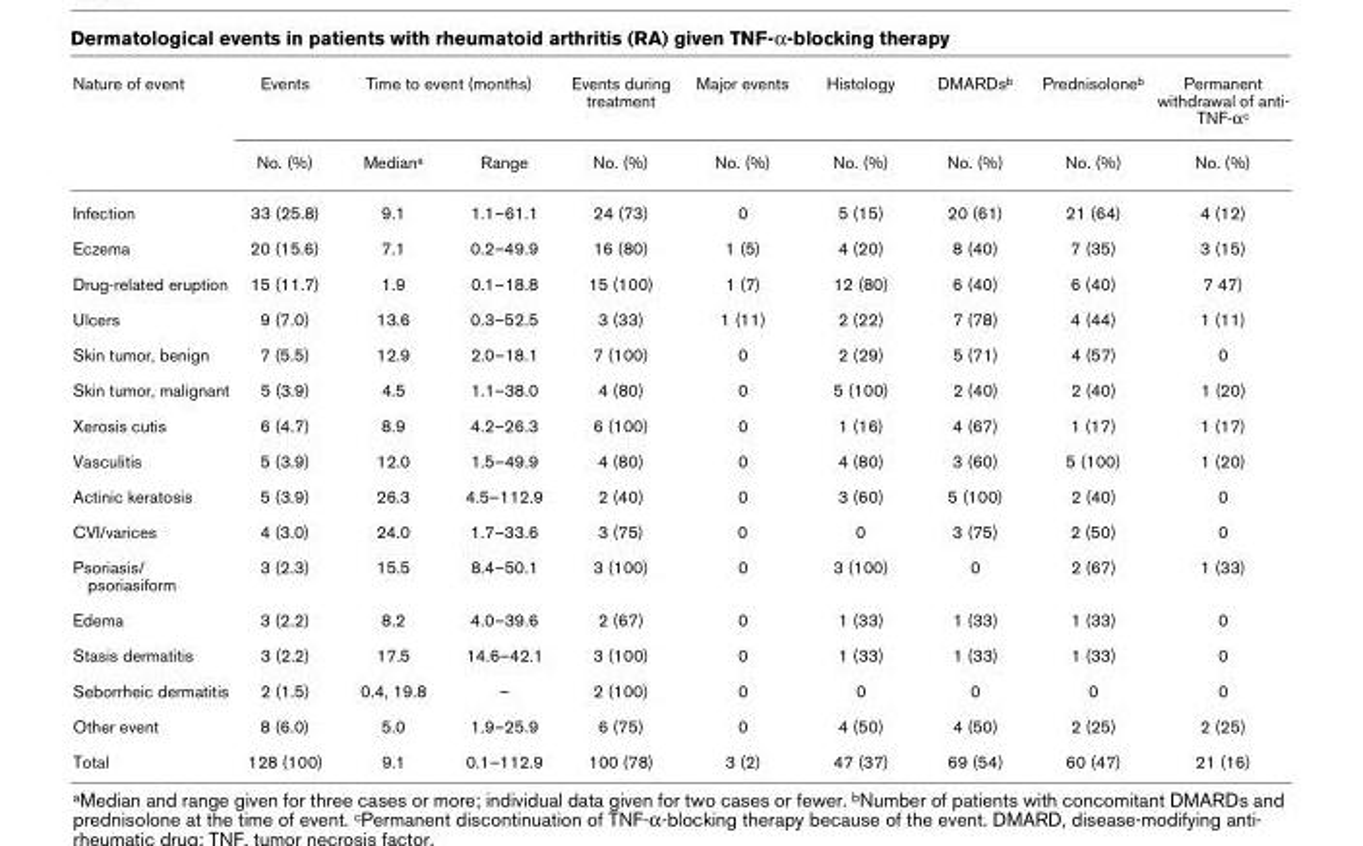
<table><thead><tr><td rowspan="2">Nature of event</td><td rowspan="2">Events No. (%)</td><td colspan="2">Time to event (months)</td><td rowspan="2">Events during treatment No. (%)</td><td rowspan="2">Major events No. (%)</td><td rowspan="2">Histology No. (%)</td><td rowspan="2">DMARDsb No. (%)</td><td rowspan="2">Prednisoloneb No. (%)</td><td rowspan="2">Permanent withdrawal of anti- TNF-αc No. (%)</td></tr><tr><td>Mediana</td><td>Range</td></tr></thead><tbody><tr><td>Infection</td><td>33 (25.8)</td><td>9.1</td><td>1.1–61.1</td><td>24 (73)</td><td>0</td><td>5 (15)</td><td>20 (61)</td><td>21 (64)</td><td>4 (12)</td></tr><tr><td>Eczema</td><td>20 (15.6)</td><td>7.1</td><td>0.2–49.9</td><td>16 (80)</td><td>1 (5)</td><td>4 (20)</td><td>8 (40)</td><td>7 (35)</td><td>3 (15)</td></tr><tr><td>Drug-related eruption</td><td>15 (11.7)</td><td>1.9</td><td>0.1–18.8</td><td>15 (100)</td><td>1 (7)</td><td>12 (80)</td><td>6 (40)</td><td>6 (40)</td><td>7 47)</td></tr><tr><td>Ulcers</td><td>9 (7.0)</td><td>13.6</td><td>0.3–52.5</td><td>3 (33)</td><td>1 (11)</td><td>2 (22)</td><td>7 (78)</td><td>4 (44)</td><td>1 (11)</td></tr><tr><td>Skin tumor, benign</td><td>7 (5.5)</td><td>12.9</td><td>2.0–18.1</td><td>7 (100)</td><td>0</td><td>2 (29)</td><td>5 (71)</td><td>4 (57)</td><td>0</td></tr><tr><td>Skin tumor, malignant</td><td>5 (3.9)</td><td>4.5</td><td>1.1–38.0</td><td>4 (80)</td><td>0</td><td>5 (100)</td><td>2 (40)</td><td>2 (40)</td><td>1 (20)</td></tr><tr><td>Xerosis cutis</td><td>6 (4.7)</td><td>8.9</td><td>4.2–26.3</td><td>6 (100)</td><td>0</td><td>1 (16)</td><td>4 (67)</td><td>1 (17)</td><td>1 (17)</td></tr><tr><td>Vasculitis</td><td>5 (3.9)</td><td>12.0</td><td>1.5–49.9</td><td>4 (80)</td><td>0</td><td>4 (80)</td><td>3 (60)</td><td>5 (100)</td><td>1 (20)</td></tr><tr><td>Actinic keratosis</td><td>5 (3.9)</td><td>26.3</td><td>4.5–112.9</td><td>2 (40)</td><td>0</td><td>3 (60)</td><td>5 (100)</td><td>2 (40)</td><td>0</td></tr><tr><td>CVI/varices</td><td>4 (3.0)</td><td>24.0</td><td>1.7–33.6</td><td>3 (75)</td><td>0</td><td>0</td><td>3 (75)</td><td>2 (50)</td><td>0</td></tr><tr><td>Psoriasis/ psoriasiform</td><td>3 (2.3)</td><td>15.5</td><td>8.4–50.1</td><td>3 (100)</td><td>0</td><td>3 (100)</td><td>0</td><td>2 (67)</td><td>1 (33)</td></tr><tr><td>Edema</td><td>3 (2.2)</td><td>8.2</td><td>4.0–39.6</td><td>2 (67)</td><td>0</td><td>1 (33)</td><td>1 (33)</td><td>1 (33)</td><td>0</td></tr><tr><td>Stasis dermatitis</td><td>3 (2.2)</td><td>17.5</td><td>14.6–42.1</td><td>3 (100)</td><td>0</td><td>1 (33)</td><td>1 (33)</td><td>1 (33)</td><td>0</td></tr><tr><td>Seborrheic dermatitis</td><td>2 (1.5)</td><td>0.4, 19.8</td><td>–</td><td>2 (100)</td><td>0</td><td>0</td><td>0</td><td>0</td><td>0</td></tr><tr><td>Other event</td><td>8 (6.0)</td><td>5.0</td><td>1.9–25.9</td><td>6 (75)</td><td>0</td><td>4 (50)</td><td>4 (50)</td><td>2 (25)</td><td>2 (25)</td></tr><tr><td>Total</td><td>128 (100)</td><td>9.1</td><td>0.1–112.9</td><td>100 (78)</td><td>3 (2)</td><td>47 (37)</td><td>69 (54)</td><td>60 (47)</td><td>21 (16)</td></tr></tbody></table>